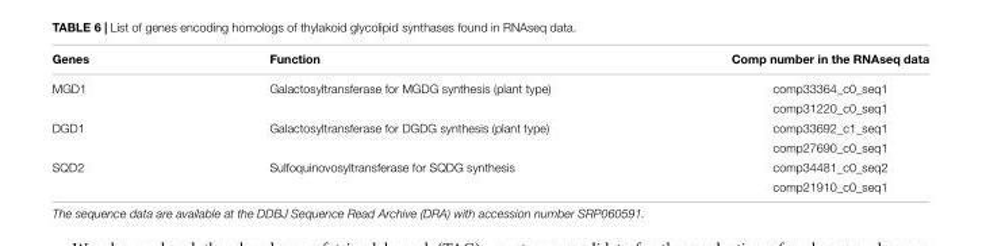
<table><thead><tr><td>Genes</td><td>Function</td><td>Comp number in the RNAseq data</td></tr></thead><tbody><tr><td rowspan="2">MGD1</td><td>Galactosyltransferase for MGDG synthesis (plant type)</td><td>comp33364_c0_seq1</td></tr><tr><td></td><td>comp31220_c0_seq1</td></tr><tr><td rowspan="2">DGD1</td><td>Galactosyltransferase for DGDG synthesis (plant type)</td><td>comp33692_c1_seq1</td></tr><tr><td></td><td>comp27690_c0_seq1</td></tr><tr><td rowspan="2">SQD2</td><td>Sulfoquinovosyltransferase for SQDG synthesis</td><td>comp34481_c0_seq2</td></tr><tr><td></td><td>comp21910_c0_seq1</td></tr></tbody></table>